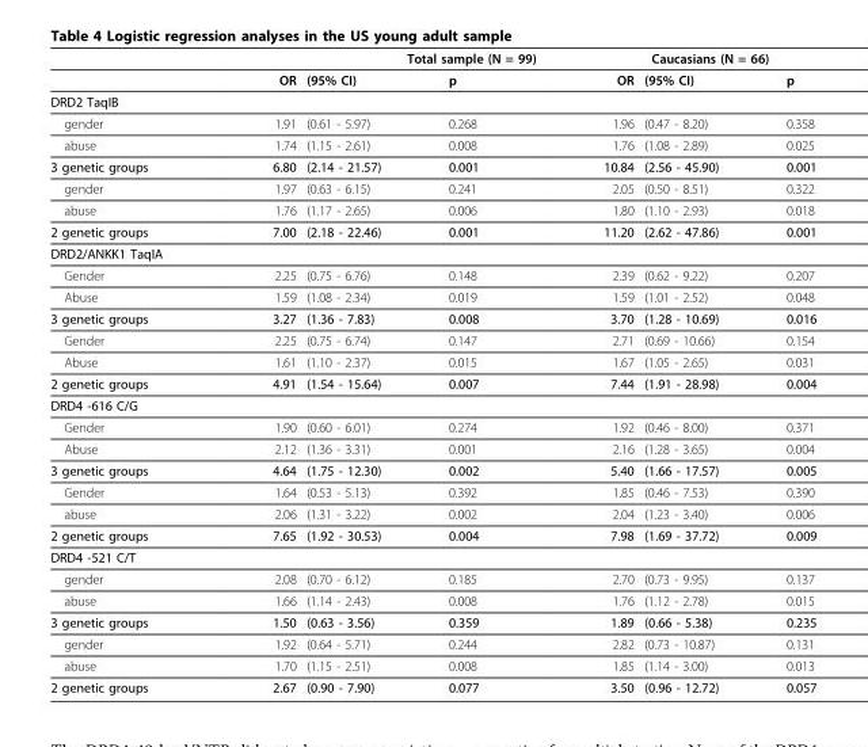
<table><thead><tr><td rowspan="2"></td><td colspan="3">Total sample (N = 99)</td><td colspan="3">Caucasians (N = 66)</td></tr><tr><td>OR</td><td>(95% CI)</td><td>p</td><td>OR</td><td>(95% CI)</td><td>p</td></tr></thead><tbody><tr><td colspan="7">DRD2 TaqIB</td></tr><tr><td>gender</td><td>1.91</td><td>(0.61 - 5.97)</td><td>0.268</td><td>1.96</td><td>(0.47 - 8.20)</td><td>0.358</td></tr><tr><td>abuse</td><td>1.74</td><td>(1.15 - 2.61)</td><td>0.008</td><td>1.76</td><td>(1.08 - 2.89)</td><td>0.025</td></tr><tr><td>3 genetic groups</td><td>6.80</td><td>(2.14 - 21.57)</td><td>0.001</td><td>10.84</td><td>(2.56 - 45.90)</td><td>0.001</td></tr><tr><td>gender</td><td>1.97</td><td>(0.63 - 6.15)</td><td>0.241</td><td>2.05</td><td>(0.50 - 8.51)</td><td>0.322</td></tr><tr><td>abuse</td><td>1.76</td><td>(1.17 - 2.65)</td><td>0.006</td><td>1.80</td><td>(1.10 - 2.93)</td><td>0.018</td></tr><tr><td>2 genetic groups</td><td>7.00</td><td>(2.18 - 22.46)</td><td>0.001</td><td>11.20</td><td>(2.62 - 47.86)</td><td>0.001</td></tr><tr><td colspan="7">DRD2/ANKK1 TaqIA</td></tr><tr><td>Gender</td><td>2.25</td><td>(0.75 - 6.76)</td><td>0.148</td><td>2.39</td><td>(0.62 - 9.22)</td><td>0.207</td></tr><tr><td>Abuse</td><td>1.59</td><td>(1.08 - 2.34)</td><td>0.019</td><td>1.59</td><td>(1.01 - 2.52)</td><td>0.048</td></tr><tr><td>3 genetic groups</td><td>3.27</td><td>(1.36 - 7.83)</td><td>0.008</td><td>3.70</td><td>(1.28 - 10.69)</td><td>0.016</td></tr><tr><td>Gender</td><td>2.25</td><td>(0.75 - 6.74)</td><td>0.147</td><td>2.71</td><td>(0.69 - 10.66)</td><td>0.154</td></tr><tr><td>Abuse</td><td>1.61</td><td>(1.10 - 2.37)</td><td>0.015</td><td>1.67</td><td>(1.05 - 2.65)</td><td>0.031</td></tr><tr><td>2 genetic groups</td><td>4.91</td><td>(1.54 - 15.64)</td><td>0.007</td><td>7.44</td><td>(1.91 - 28.98)</td><td>0.004</td></tr><tr><td colspan="7">DRD4 -616 C/G</td></tr><tr><td>Gender</td><td>1.90</td><td>(0.60 - 6.01)</td><td>0.274</td><td>1.92</td><td>(0.46 - 8.00)</td><td>0.371</td></tr><tr><td>Abuse</td><td>2.12</td><td>(1.36 - 3.31)</td><td>0.001</td><td>2.16</td><td>(1.28 - 3.65)</td><td>0.004</td></tr><tr><td>3 genetic groups</td><td>4.64</td><td>(1.75 - 12.30)</td><td>0.002</td><td>5.40</td><td>(1.66 - 17.57)</td><td>0.005</td></tr><tr><td>Gender</td><td>1.64</td><td>(0.53 - 5.13)</td><td>0.392</td><td>1.85</td><td>(0.46 - 7.53)</td><td>0.390</td></tr><tr><td>abuse</td><td>2.06</td><td>(1.31 - 3.22)</td><td>0.002</td><td>2.04</td><td>(1.23 - 3.40)</td><td>0.006</td></tr><tr><td>2 genetic groups</td><td>7.65</td><td>(1.92 - 30.53)</td><td>0.004</td><td>7.98</td><td>(1.69 - 37.72)</td><td>0.009</td></tr><tr><td colspan="7">DRD4 -521 C/T</td></tr><tr><td>gender</td><td>2.08</td><td>(0.70 - 6.12)</td><td>0.185</td><td>2.70</td><td>(0.73 - 9.95)</td><td>0.137</td></tr><tr><td>abuse</td><td>1.66</td><td>(1.14 - 2.43)</td><td>0.008</td><td>1.76</td><td>(1.12 - 2.78)</td><td>0.015</td></tr><tr><td>3 genetic groups</td><td>1.50</td><td>(0.63 - 3.56)</td><td>0.359</td><td>1.89</td><td>(0.66 - 5.38)</td><td>0.235</td></tr><tr><td>gender</td><td>1.92</td><td>(0.64 - 5.71)</td><td>0.244</td><td>2.82</td><td>(0.73 - 10.87)</td><td>0.131</td></tr><tr><td>abuse</td><td>1.70</td><td>(1.15 - 2.51)</td><td>0.008</td><td>1.85</td><td>(1.14 - 3.00)</td><td>0.013</td></tr><tr><td>2 genetic groups</td><td>2.67</td><td>(0.90 - 7.90)</td><td>0.077</td><td>3.50</td><td>(0.96 - 12.72)</td><td>0.057</td></tr></tbody></table>